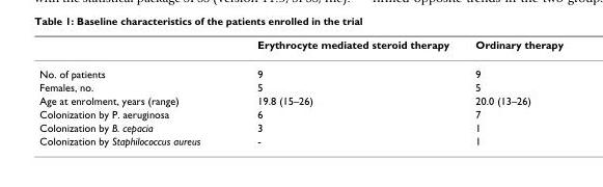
<table><thead><tr><td></td><td>Erythrocyte mediated steroid therapy</td><td>Ordinary therapy</td></tr></thead><tbody><tr><td>No. of patients</td><td>9</td><td>9</td></tr><tr><td>Females, no.</td><td>5</td><td>5</td></tr><tr><td>Age at enrolment, years (range)</td><td>19.8 (15–26)</td><td>20.0 (13–26)</td></tr><tr><td>Colonization by P. aeruginosa</td><td>6</td><td>7</td></tr><tr><td>Colonization by B. cepacia</td><td>3</td><td>1</td></tr><tr><td>Colonization by Staphilococcus aureus</td><td>-</td><td>1</td></tr></tbody></table>